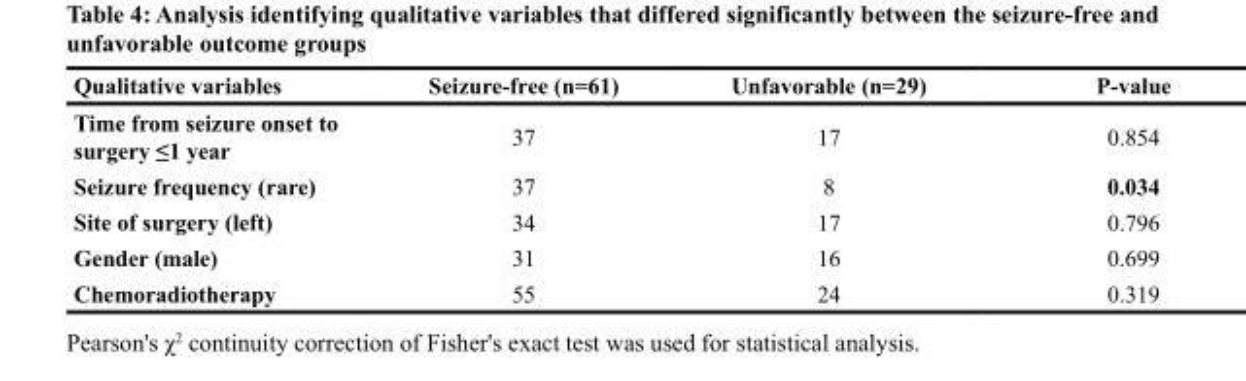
<table><thead><tr><td>Qualitative variables</td><td>Seizure-free (n=61)</td><td>Unfavorable (n=29)</td><td>P-value</td></tr></thead><tbody><tr><td>Time from seizure onset to surgery ≤1 year</td><td>37</td><td>17</td><td>0.854</td></tr><tr><td>Seizure frequency (rare)</td><td>37</td><td>8</td><td>0.034</td></tr><tr><td>Site of surgery (left)</td><td>34</td><td>17</td><td>0.796</td></tr><tr><td>Gender (male)</td><td>31</td><td>16</td><td>0.699</td></tr><tr><td>Chemoradiotherapy</td><td>55</td><td>24</td><td>0.319</td></tr></tbody></table>